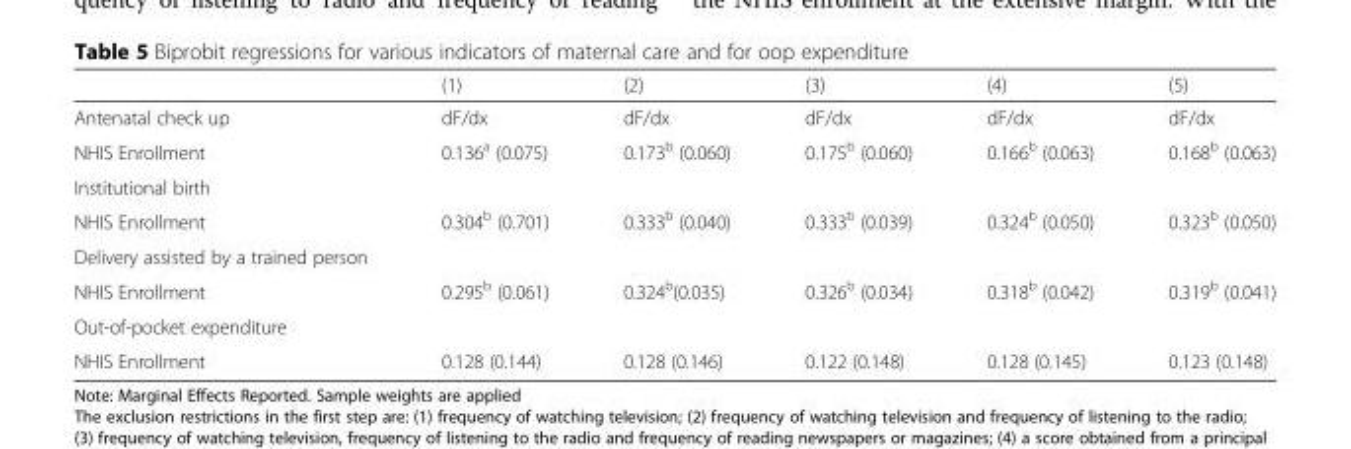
<table><thead><tr><td></td><td>(1)</td><td>(2)</td><td>(3)</td><td>(4)</td><td>(5)</td></tr></thead><tbody><tr><td>Antenatal check up</td><td>dF/dx</td><td>dF/dx</td><td>dF/dx</td><td>dF/dx</td><td>dF/dx</td></tr><tr><td>NHIS Enrollment</td><td>0.136<sup>a</sup> (0.075)</td><td>0.173<sup>b</sup> (0.060)</td><td>0.175<sup>b</sup> (0.060)</td><td>0.166<sup>b</sup> (0.063)</td><td>0.168<sup>b</sup> (0.063)</td></tr><tr><td colspan="6">Institutional birth</td></tr><tr><td>NHIS Enrollment</td><td>0.304<sup>b</sup> (0.701)</td><td>0.333<sup>b</sup> (0.040)</td><td>0.333<sup>b</sup> (0.039)</td><td>0.324<sup>b</sup> (0.050)</td><td>0.323<sup>b</sup> (0.050)</td></tr><tr><td colspan="6">Delivery assisted by a trained person</td></tr><tr><td>NHIS Enrollment</td><td>0.295<sup>b</sup> (0.061)</td><td>0.324<sup>b</sup>(0.035)</td><td>0.326<sup>b</sup> (0.034)</td><td>0.318<sup>b</sup> (0.042)</td><td>0.319<sup>b</sup> (0.041)</td></tr><tr><td colspan="6">Out-of-pocket expenditure</td></tr><tr><td>NHIS Enrollment</td><td>0.128 (0.144)</td><td>0.128 (0.146)</td><td>0.122 (0.148)</td><td>0.128 (0.145)</td><td>0.123 (0.148)</td></tr></tbody></table>